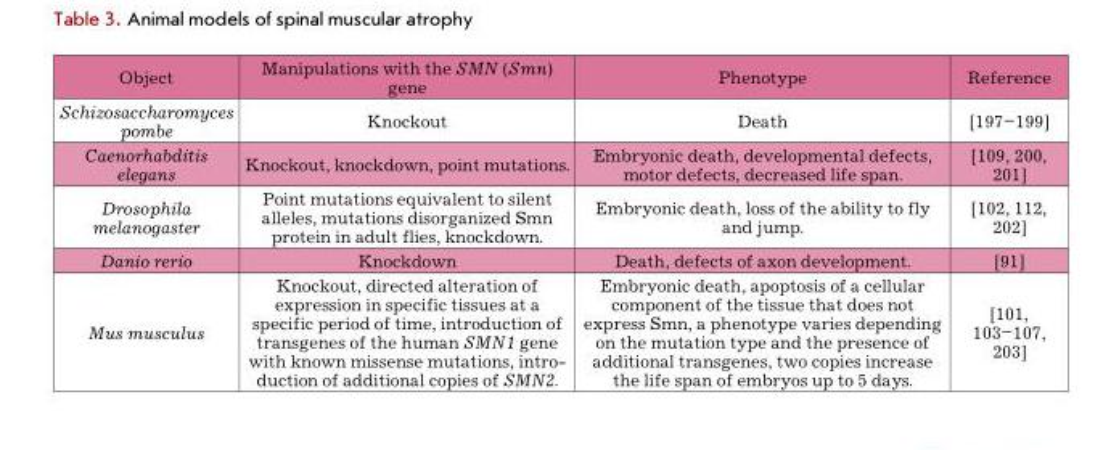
<table><thead><tr><td>Object</td><td>Manipulations with the SMN (Smn) gene</td><td>Phenotype</td><td>Reference</td></tr></thead><tbody><tr><td>Schizosaccharomyces pombe</td><td>Knockout</td><td>Death</td><td>[197–199]</td></tr><tr><td>Caenorhabditis elegans</td><td>Knockout, knockdown, point mutations.</td><td>Embryonic death, developmental defects, motor defects, decreased life span.</td><td>[109, 200, 201]</td></tr><tr><td>Drosophila melanogaster</td><td>Point mutations equivalent to silent alleles, mutations disorganized Smn protein in adult flies, knockdown.</td><td>Embryonic death, loss of the ability to fly and jump.</td><td>[102, 112, 202]</td></tr><tr><td>Danio rerio</td><td>Knockdown</td><td>Death, defects of axon development.</td><td>[91]</td></tr><tr><td>Mus musculus</td><td>Knockout, directed alteration of expression in specific tissues at a specific period of time, introduction of transgenes of the human SMN1 gene with known missense mutations, intro- duction of additional copies of SMN2.</td><td>Embryonic death, apoptosis of a cellular component of the tissue that does not express Smn, a phenotype varies depending on the mutation type and the presence of additional transgenes, two copies increase the life span of embryos up to 5 days.</td><td>[101, 103–107, 203]</td></tr></tbody></table>